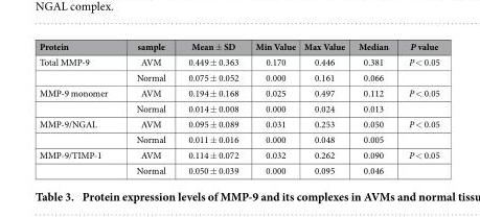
<table><thead><tr><td>Protein</td><td>sample</td><td>Mean ± SD</td><td>Min Value</td><td>Max Value</td><td>Median</td><td>P value</td></tr></thead><tbody><tr><td rowspan="2">Total MMP-9</td><td>AVM</td><td>0.449 ± 0.363</td><td>0.170</td><td>0.446</td><td>0.381</td><td>P &lt; 0.05</td></tr><tr><td>Normal</td><td>0.075 ± 0.052</td><td>0.000</td><td>0.161</td><td>0.066</td><td></td></tr><tr><td rowspan="2">MMP-9 monomer</td><td>AVM</td><td>0.194 ± 0.168</td><td>0.025</td><td>0.497</td><td>0.112</td><td>P &lt; 0.05</td></tr><tr><td>Normal</td><td>0.014 ± 0.008</td><td>0.000</td><td>0.024</td><td>0.013</td><td></td></tr><tr><td rowspan="2">MMP-9/NGAL</td><td>AVM</td><td>0.095 ± 0.089</td><td>0.031</td><td>0.253</td><td>0.050</td><td>P &lt; 0.05</td></tr><tr><td>Normal</td><td>0.011 ± 0.016</td><td>0.000</td><td>0.048</td><td>0.005</td><td></td></tr><tr><td rowspan="2">MMP-9/TIMP-1</td><td>AVM</td><td>0.114 ± 0.072</td><td>0.032</td><td>0.262</td><td>0.090</td><td>P &lt; 0.05</td></tr><tr><td>Normal</td><td>0.050 ± 0.039</td><td>0.000</td><td>0.095</td><td>0.046</td><td></td></tr></tbody></table>